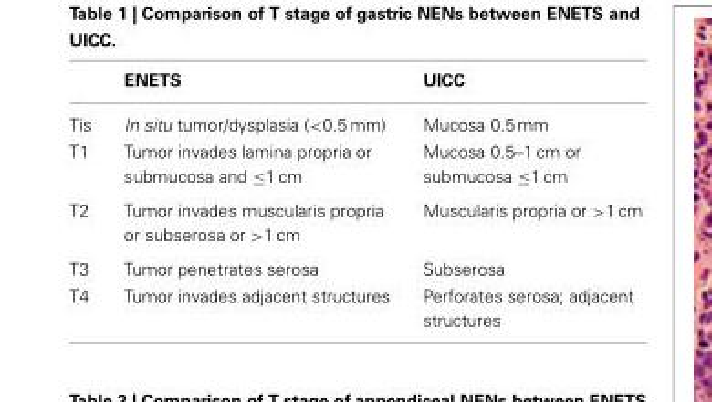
<table><thead><tr><td></td><td>ENETS</td><td>UICC</td></tr></thead><tbody><tr><td>Tis</td><td>In situ tumor/dysplasia (&lt;0.5 mm)</td><td>Mucosa 0.5 mm</td></tr><tr><td>T1</td><td>Tumor invades lamina propria or submucosa and ≤1 cm</td><td>Mucosa 0.5–1 cm or submucosa ≤1 cm</td></tr><tr><td>T2</td><td>Tumor invades muscularis propria or subserosa or &gt;1 cm</td><td>Muscularis propria or &gt;1 cm</td></tr><tr><td>T3</td><td>Tumor penetrates serosa</td><td>Subserosa</td></tr><tr><td>T4</td><td>Tumor invades adjacent structures</td><td>Perforates serosa; adjacent structures</td></tr></tbody></table>